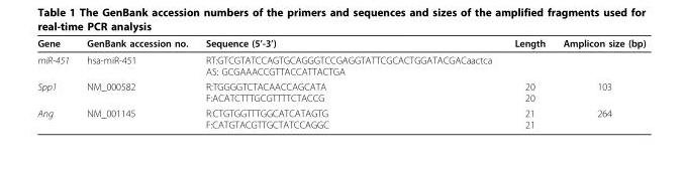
<table><thead><tr><td>Gene</td><td>GenBank accession no.</td><td>Sequence (5’-3’)</td><td>Length</td><td>Amplicon size (bp)</td></tr></thead><tbody><tr><td>miR-451</td><td>hsa-miR-451</td><td>RT:GTCGTATCCAGTGCAGGGTCCGAGGTATTCGCACTGGATACGACaactca AS: GCGAAACCGTTACCATTACTGA</td><td></td><td></td></tr><tr><td>Spp1</td><td>NM_000582</td><td>R:TGGGGTCTACAACCAGCATA F:ACATCTTTGCGTTTTCTACCG</td><td>20 20</td><td>103</td></tr><tr><td>Ang</td><td>NM_001145</td><td>R:CTGTGGTTTGGCATCATAGTG F:CATGTACGTTGCTATCCAGGC</td><td>21 21</td><td>264</td></tr></tbody></table>